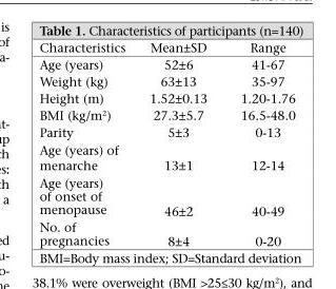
<table><thead><tr><td>Characteristics</td><td>Mean±SD</td><td>Range</td></tr></thead><tbody><tr><td>Age (years)</td><td>52±6</td><td>41-67</td></tr><tr><td>Weight (kg)</td><td>63±13</td><td>35-97</td></tr><tr><td>Height (m)</td><td>1.52±0.13</td><td>1.20-1.76</td></tr><tr><td>BMI (kg/m<sup>2</sup>)</td><td>27.3±5.7</td><td>16.5-48.0</td></tr><tr><td>Parity</td><td>5±3</td><td>0-13</td></tr><tr><td>Age (years) of menarche</td><td>13±1</td><td>12-14</td></tr><tr><td>Age (years) of onset of menopause</td><td>46±2</td><td>40-49</td></tr><tr><td>No. of pregnancies</td><td>8±4</td><td>0-20</td></tr></tbody></table>